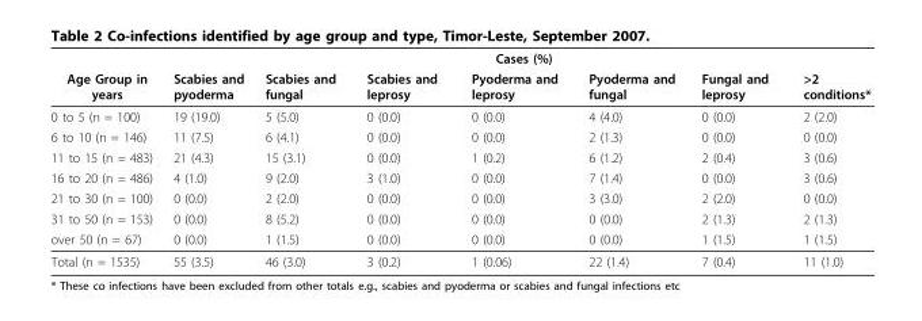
<table><thead><tr><td rowspan="2">Age Group in years</td><td colspan="7">Cases (%)</td></tr><tr><td>Scabies and pyoderma</td><td>Scabies and fungal</td><td>Scabies and leprosy</td><td>Pyoderma and leprosy</td><td>Pyoderma and fungal</td><td>Fungal and leprosy</td><td>&gt;2 conditions*</td></tr></thead><tbody><tr><td>0 to 5 (n = 100)</td><td>19 (19.0)</td><td>5 (5.0)</td><td>0 (0.0)</td><td>0 (0.0)</td><td>4 (4.0)</td><td>0 (0.0)</td><td>2 (2.0)</td></tr><tr><td>6 to 10 (n = 146)</td><td>11 (7.5)</td><td>6 (4.1)</td><td>0 (0.0)</td><td>0 (0.0)</td><td>2 (1.3)</td><td>0 (0.0)</td><td>0 (0.0)</td></tr><tr><td>11 to 15 (n = 483)</td><td>21 (4.3)</td><td>15 (3.1)</td><td>0 (0.0)</td><td>1 (0.2)</td><td>6 (1.2)</td><td>2 (0.4)</td><td>3 (0.6)</td></tr><tr><td>16 to 20 (n = 486)</td><td>4 (1.0)</td><td>9 (2.0)</td><td>3 (1.0)</td><td>0 (0.0)</td><td>7 (1.4)</td><td>0 (0.0)</td><td>3 (0.6)</td></tr><tr><td>21 to 30 (n = 100)</td><td>0 (0.0)</td><td>2 (2.0)</td><td>0 (0.0)</td><td>0 (0.0)</td><td>3 (3.0)</td><td>2 (2.0)</td><td>0 (0.0)</td></tr><tr><td>31 to 50 (n = 153)</td><td>0 (0.0)</td><td>8 (5.2)</td><td>0 (0.0)</td><td>0 (0.0)</td><td>0 (0.0)</td><td>2 (1.3)</td><td>2 (1.3)</td></tr><tr><td>over 50 (n = 67)</td><td>0 (0.0)</td><td>1 (1.5)</td><td>0 (0.0)</td><td>0 (0.0)</td><td>0 (0.0)</td><td>1 (1.5)</td><td>1 (1.5)</td></tr><tr><td>Total (n = 1535)</td><td>55 (3.5)</td><td>46 (3.0)</td><td>3 (0.2)</td><td>1 (0.06)</td><td>22 (1.4)</td><td>7 (0.4)</td><td>11 (1.0)</td></tr></tbody></table>